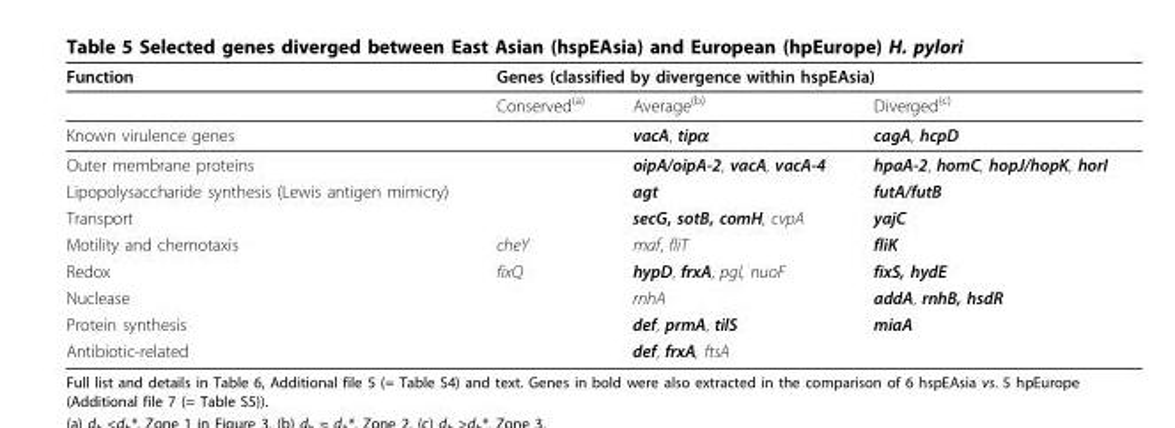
<table><thead><tr><td rowspan="2">Function</td><td colspan="3">Genes (classified by divergence within hspEAsia)</td></tr><tr><td>Conserved<sup>(a)</sup></td><td>Average<sup>(b)</sup></td><td>Diverged<sup>(c)</sup></td></tr></thead><tbody><tr><td>Known virulence genes</td><td></td><td>vacA, tipα</td><td>cagA, hcpD</td></tr><tr><td>Outer membrane proteins</td><td></td><td>oipA/oipA-2, vacA, vacA-4</td><td>hpaA-2, homC, hopJ/hopK, horI</td></tr><tr><td>Lipopolysaccharide synthesis (Lewis antigen mimicry)</td><td></td><td>agt</td><td>futA/futB</td></tr><tr><td>Transport</td><td></td><td>secG, sotB, comH, cvpA</td><td>yajC</td></tr><tr><td>Motility and chemotaxis</td><td>cheY</td><td>maf, fliT</td><td>fliK</td></tr><tr><td>Redox</td><td>fixQ</td><td>hypD, frxA, pgl, nuoF</td><td>fixS, hydE</td></tr><tr><td>Nuclease</td><td></td><td>rnhA</td><td>addA, rnhB, hsdR</td></tr><tr><td>Protein synthesis</td><td></td><td>def, prmA, tilS</td><td>miaA</td></tr><tr><td>Antibiotic-related</td><td></td><td>def, frxA, ftsA</td><td></td></tr></tbody></table>